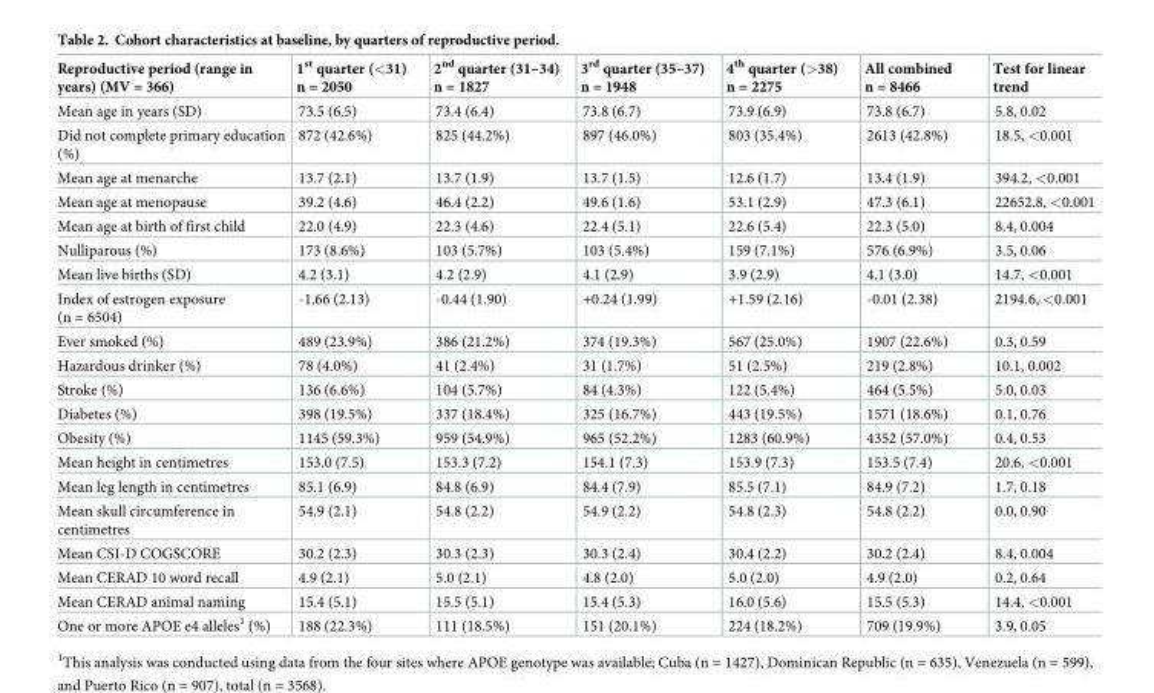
<table><thead><tr><td>Reproductive period (range in years) (MV = 366)</td><td>1<sup>st</sup> quarter (&lt;31) n = 2050</td><td>2<sup>nd</sup> quarter (31–34) n = 1827</td><td>3<sup>rd</sup> quarter (35–37) n = 1948</td><td>4<sup>th</sup> quarter (&gt;38) n = 2275</td><td>All combined n = 8466</td><td>Test for linear trend</td></tr></thead><tbody><tr><td>Mean age in years (SD)</td><td>73.5 (6.5)</td><td>73.4 (6.4)</td><td>73.8 (6.7)</td><td>73.9 (6.9)</td><td>73.8 (6.7)</td><td>5.8, 0.02</td></tr><tr><td>Did not complete primary education (%)</td><td>872 (42.6%)</td><td>825 (44.2%)</td><td>897 (46.0%)</td><td>803 (35.4%)</td><td>2613 (42.8%)</td><td>18.5, &lt;0.001</td></tr><tr><td>Mean age at menarche</td><td>13.7 (2.1)</td><td>13.7 (1.9)</td><td>13.7 (1.5)</td><td>12.6 (1.7)</td><td>13.4 (1.9)</td><td>394.2, &lt;0.001</td></tr><tr><td>Mean age at menopause</td><td>39.2 (4.6)</td><td>46.4 (2.2)</td><td>49.6 (1.6)</td><td>53.1 (2.9)</td><td>47.3 (6.1)</td><td>22652.8, &lt;0.001</td></tr><tr><td>Mean age at birth of first child</td><td>22.0 (4.9)</td><td>22.3 (4.6)</td><td>22.4 (5.1)</td><td>22.6 (5.4)</td><td>22.3 (5.0)</td><td>8.4, 0.004</td></tr><tr><td>Nulliparous (%)</td><td>173 (8.6%)</td><td>103 (5.7%)</td><td>103 (5.4%)</td><td>159 (7.1%)</td><td>576 (6.9%)</td><td>3.5, 0.06</td></tr><tr><td>Mean live births (SD)</td><td>4.2 (3.1)</td><td>4.2 (2.9)</td><td>4.1 (2.9)</td><td>3.9 (2.9)</td><td>4.1 (3.0)</td><td>14.7, &lt;0.001</td></tr><tr><td>Index of estrogen exposure (n = 6504)</td><td>-1.66 (2.13)</td><td>-0.44 (1.90)</td><td>+0.24 (1.99)</td><td>+1.59 (2.16)</td><td>-0.01 (2.38)</td><td>2194.6, &lt;0.001</td></tr><tr><td>Ever smoked (%)</td><td>489 (23.9%)</td><td>386 (21.2%)</td><td>374 (19.3%)</td><td>567 (25.0%)</td><td>1907 (22.6%)</td><td>0.3, 0.59</td></tr><tr><td>Hazardous drinker (%)</td><td>78 (4.0%)</td><td>41 (2.4%)</td><td>31 (1.7%)</td><td>51 (2.5%)</td><td>219 (2.8%)</td><td>10.1, 0.002</td></tr><tr><td>Stroke (%)</td><td>136 (6.6%)</td><td>104 (5.7%)</td><td>84 (4.3%)</td><td>122 (5.4%)</td><td>464 (5.5%)</td><td>5.0, 0.03</td></tr><tr><td>Diabetes (%)</td><td>398 (19.5%)</td><td>337 (18.4%)</td><td>325 (16.7%)</td><td>443 (19.5%)</td><td>1571 (18.6%)</td><td>0.1, 0.76</td></tr><tr><td>Obesity (%)</td><td>1145 (59.3%)</td><td>959 (54.9%)</td><td>965 (52.2%)</td><td>1283 (60.9%)</td><td>4352 (57.0%)</td><td>0.4, 0.53</td></tr><tr><td>Mean height in centimetres</td><td>153.0 (7.5)</td><td>153.3 (7.2)</td><td>154.1 (7.3)</td><td>153.9 (7.3)</td><td>153.5 (7.4)</td><td>20.6, &lt;0.001</td></tr><tr><td>Mean leg length in centimetres</td><td>85.1 (6.9)</td><td>84.8 (6.9)</td><td>84.4 (7.9)</td><td>85.5 (7.1)</td><td>84.9 (7.2)</td><td>1.7, 0.18</td></tr><tr><td>Mean skull circumference in centimetres</td><td>54.9 (2.1)</td><td>54.8 (2.2)</td><td>54.9 (2.2)</td><td>54.8 (2.3)</td><td>54.8 (2.2)</td><td>0.0, 0.90</td></tr><tr><td>Mean CSI-D COGSCORE</td><td>30.2 (2.3)</td><td>30.3 (2.3)</td><td>30.3 (2.4)</td><td>30.4 (2.2)</td><td>30.2 (2.4)</td><td>8.4, 0.004</td></tr><tr><td>Mean CERAD 10 word recall</td><td>4.9 (2.1)</td><td>5.0 (2.1)</td><td>4.8 (2.0)</td><td>5.0 (2.0)</td><td>4.9 (2.0)</td><td>0.2, 0.64</td></tr><tr><td>Mean CERAD animal naming</td><td>15.4 (5.1)</td><td>15.5 (5.1)</td><td>15.4 (5.3)</td><td>16.0 (5.6)</td><td>15.5 (5.3)</td><td>14.4, &lt;0.001</td></tr><tr><td>One or more APOE e4 alleles<sup>1</sup> (%)</td><td>188 (22.3%)</td><td>111 (18.5%)</td><td>151 (20.1%)</td><td>224 (18.2%)</td><td>709 (19.9%)</td><td>3.9, 0.05</td></tr></tbody></table>